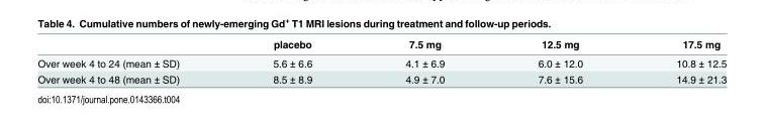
<table><thead><tr><td></td><td>placebo</td><td>7.5 mg</td><td>12.5 mg</td><td>17.5 mg</td></tr></thead><tbody><tr><td>Over week 4 to 24 (mean ± SD)</td><td>5.6 ± 6.6</td><td>4.1 ± 6.9</td><td>6.0 ± 12.0</td><td>10.8 ± 12.5</td></tr><tr><td>Over week 4 to 48 (mean ± SD)</td><td>8.5 ± 8.9</td><td>4.9 ± 7.0</td><td>7.6 ± 15.6</td><td>14.9 ± 21.3</td></tr></tbody></table>